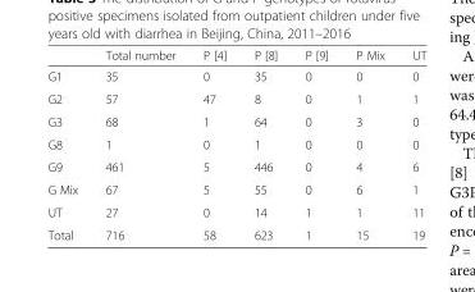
<table><thead><tr><td></td><td>Total number</td><td>P [4]</td><td>P [8]</td><td>P [9]</td><td>P Mix</td><td>UT</td></tr></thead><tbody><tr><td>G1</td><td>35</td><td>0</td><td>35</td><td>0</td><td>0</td><td>0</td></tr><tr><td>G2</td><td>57</td><td>47</td><td>8</td><td>0</td><td>1</td><td>1</td></tr><tr><td>G3</td><td>68</td><td>1</td><td>64</td><td>0</td><td>3</td><td>0</td></tr><tr><td>G8</td><td>1</td><td>0</td><td>1</td><td>0</td><td>0</td><td>0</td></tr><tr><td>G9</td><td>461</td><td>5</td><td>446</td><td>0</td><td>4</td><td>6</td></tr><tr><td>G Mix</td><td>67</td><td>5</td><td>55</td><td>0</td><td>6</td><td>1</td></tr><tr><td>UT</td><td>27</td><td>0</td><td>14</td><td>1</td><td>1</td><td>11</td></tr><tr><td>Total</td><td>716</td><td>58</td><td>623</td><td>1</td><td>15</td><td>19</td></tr></tbody></table>